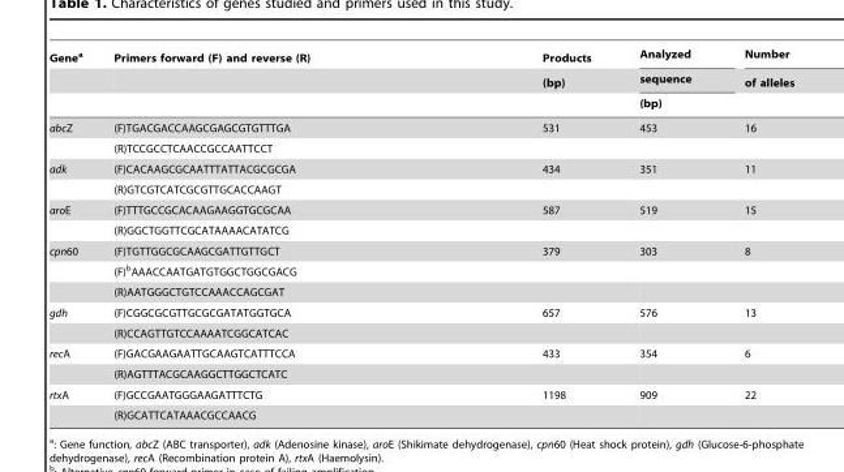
<table><thead><tr><td rowspan="3">Gene<sup>a</sup></td><td rowspan="3">Primers forward (F) and reverse (R)</td><td rowspan="3">Products (bp)</td><td rowspan="3">Analyzed sequence (bp)</td><td rowspan="3">Number of alleles</td></tr><tr></tr><tr></tr></thead><tbody><tr><td rowspan="2">abcZ</td><td>(F)TGACGACCAAGCGAGCGTGTTTGA</td><td>531</td><td>453</td><td>16</td></tr><tr><td>(R)TCCGCCTCAACCGCCAATTCCT</td><td></td><td></td><td></td></tr><tr><td rowspan="2">adk</td><td>(F)CACAAGCGCAATTTATTACGCGCGA</td><td>434</td><td>351</td><td>11</td></tr><tr><td>(R)GTCGTCATCGCGTTGCACCAAGT</td><td></td><td></td><td></td></tr><tr><td rowspan="2">aroE</td><td>(F)TTTGCCGCACAAGAAGGTGCGCAA</td><td>587</td><td>519</td><td>15</td></tr><tr><td>(R)GGCTGGTTCGCATAAAACATATCG</td><td></td><td></td><td></td></tr><tr><td rowspan="3">cpn60</td><td>(F)TGTTGGCGCAAGCGATTGTTGCT</td><td>379</td><td>303</td><td>8</td></tr><tr><td>(F)<sup>b</sup>AAACCAATGATGTGGCTGGCGACG</td><td></td><td></td><td></td></tr><tr><td>(R)AATGGGCTGTCCAAACCAGCGAT</td><td></td><td></td><td></td></tr><tr><td rowspan="2">gdh</td><td>(F)CGGCGCGTTGCGCGATATGGTGCA</td><td>657</td><td>576</td><td>13</td></tr><tr><td>(R)CCAGTTGTCCAAAATCGGCATCAC</td><td></td><td></td><td></td></tr><tr><td rowspan="2">recA</td><td>(F)GACGAAGAATTGCAAGTCATTTCCA</td><td>433</td><td>354</td><td>6</td></tr><tr><td>(R)AGTTTACGCAAGGCTTGGCTCATC</td><td></td><td></td><td></td></tr><tr><td rowspan="2">rtxA</td><td>(F)GCCGAATGGGAAGATTTCTG</td><td>1198</td><td>909</td><td>22</td></tr><tr><td>(R)GCATTCATAAACGCCAACG</td><td></td><td></td><td></td></tr></tbody></table>